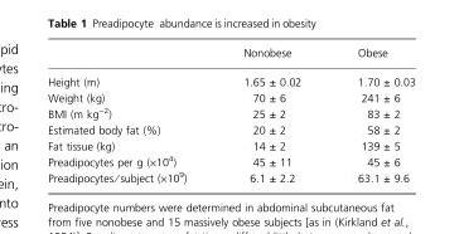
<table><thead><tr><td></td><td>Nonobese</td><td>Obese</td></tr></thead><tbody><tr><td>Height (m)</td><td>1.65 ± 0.02</td><td>1.70 ± 0.03</td></tr><tr><td>Weight (kg)</td><td>70 ± 6</td><td>241 ± 6</td></tr><tr><td>BMI (m kg<sup>−2</sup>)</td><td>25 ± 2</td><td>83 ± 2</td></tr><tr><td>Estimated body fat (%)</td><td>20 ± 2</td><td>58 ± 2</td></tr><tr><td>Fat tissue (kg)</td><td>14 ± 2</td><td>139 ± 5</td></tr><tr><td>Preadipocytes per g (×10<sup>4</sup>)</td><td>45 ± 11</td><td>45 ± 6</td></tr><tr><td>Preadipocytes ⁄ subject (×109)</td><td>6.1 ± 2.2</td><td>63.1 ± 9.6</td></tr></tbody></table>